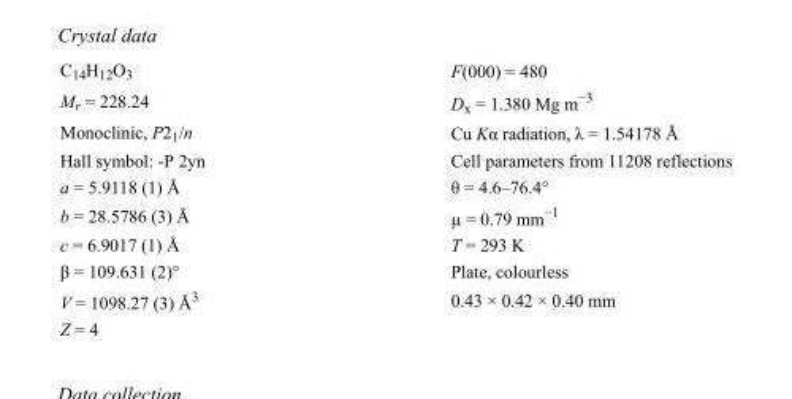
<table><tbody><tr><td>C<sub>14</sub>H<sub>12</sub>O<sub>3</sub></td><td>F(000) = 480</td></tr><tr><td>M<sub>r</sub> = 228.24</td><td>D<sub>x</sub> = 1.380 Mg m<sup>−3</sup></td></tr><tr><td>Monoclinic, P2<sub>1</sub>/n</td><td>Cu Kα radiation, λ = 1.54178 Å</td></tr><tr><td>Hall symbol: -P 2yn</td><td>Cell parameters from 11208 reflections</td></tr><tr><td>a = 5.9118 (1) Å</td><td>θ = 4.6–76.4°</td></tr><tr><td>b = 28.5786 (3) Å</td><td>µ = 0.79 mm<sup>−1</sup></td></tr><tr><td>c = 6.9017 (1) Å</td><td>T = 293 K</td></tr><tr><td>β = 109.631 (2)°</td><td>Plate, colourless</td></tr><tr><td>V = 1098.27 (3) Å<sup>3</sup></td><td>0.43 × 0.42 × 0.40 mm</td></tr><tr><td>Z = 4</td><td></td></tr></tbody></table>